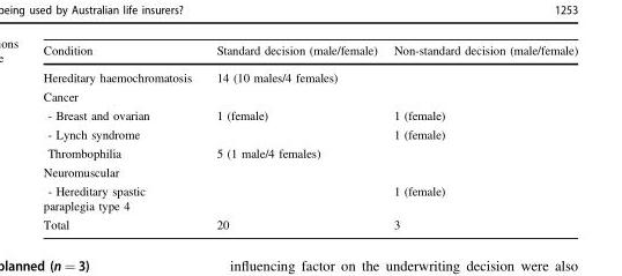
<table><thead><tr><td>Condition</td><td>Standard decision (male/female)</td><td>Non-standard decision (male/female)</td></tr></thead><tbody><tr><td>Hereditary haemochromatosis</td><td>14 (10 males/4 females)</td><td></td></tr><tr><td colspan="3">Cancer</td></tr><tr><td>- Breast and ovarian</td><td rowspan="2">1 (female)</td><td>1 (female)</td></tr><tr><td>- Lynch syndrome</td><td>1 (female)</td></tr><tr><td>Thrombophilia</td><td>5 (1 male/4 females)</td><td></td></tr><tr><td colspan="3">Neuromuscular</td></tr><tr><td>- Hereditary spastic paraplegia type 4</td><td></td><td>1 (female)</td></tr><tr><td>Total</td><td>20</td><td>3</td></tr></tbody></table>